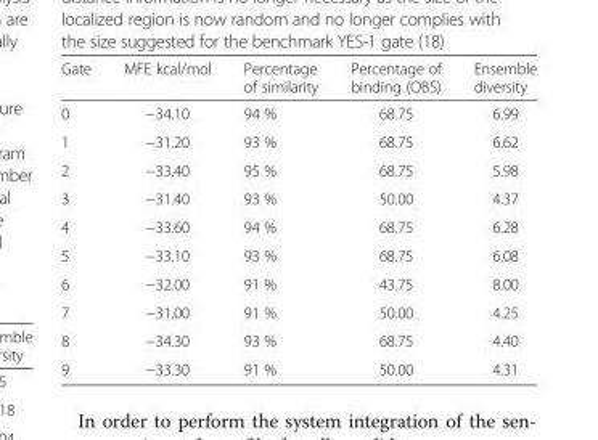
<table><thead><tr><td>Gate</td><td>MFE kcal/mol</td><td>Percentage of similarity</td><td>Percentage of binding (OBS)</td><td>Ensemble diversity</td></tr></thead><tbody><tr><td>0</td><td>−34.10</td><td>94 %</td><td>68.75</td><td>6.99</td></tr><tr><td>1</td><td>−31.20</td><td>93 %</td><td>68.75</td><td>6.62</td></tr><tr><td>2</td><td>−33.40</td><td>95 %</td><td>68.75</td><td>5.98</td></tr><tr><td>3</td><td>−31.40</td><td>93 %</td><td>50.00</td><td>4.37</td></tr><tr><td>4</td><td>−33.60</td><td>94 %</td><td>68.75</td><td>6.28</td></tr><tr><td>5</td><td>−33.10</td><td>93 %</td><td>68.75</td><td>6.08</td></tr><tr><td>6</td><td>−32.00</td><td>91 %</td><td>43.75</td><td>8.00</td></tr><tr><td>7</td><td>−31.00</td><td>91 %</td><td>50.00</td><td>4.25</td></tr><tr><td>8</td><td>−34.30</td><td>93 %</td><td>68.75</td><td>4.40</td></tr><tr><td>9</td><td>−33.30</td><td>91 %</td><td>50.00</td><td>4.31</td></tr></tbody></table>